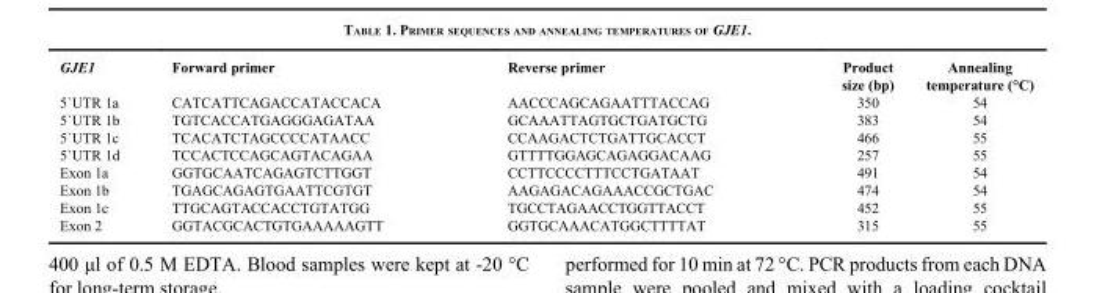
<table><thead><tr><td>GJE1</td><td>Forward primer</td><td>Reverse primer</td><td>Product size (bp)</td><td>Annealing temperature (°C)</td></tr></thead><tbody><tr><td>5`UTR 1a</td><td>CATCATTCAGACCATACCACA</td><td>AACCCAGCAGAATTTACCAG</td><td>350</td><td>54</td></tr><tr><td>5`UTR 1b</td><td>TGTCACCATGAGGGAGATAA</td><td>GCAAATTAGTGCTGATGCTG</td><td>383</td><td>54</td></tr><tr><td>5`UTR 1c</td><td>TCACATCTAGCCCCATAACC</td><td>CCAAGACTCTGATTGCACCT</td><td>466</td><td>55</td></tr><tr><td>5`UTR 1d</td><td>TCCACTCCAGCAGTACAGAA</td><td>GTTTTGGAGCAGAGGACAAG</td><td>257</td><td>55</td></tr><tr><td>Exon 1a</td><td>GGTGCAATCAGAGTCTTGGT</td><td>CCTTCCCCTTTCCTGATAAT</td><td>491</td><td>54</td></tr><tr><td>Exon 1b</td><td>TGAGCAGAGTGAATTCGTGT</td><td>AAGAGACAGAAACCGCTGAC</td><td>474</td><td>54</td></tr><tr><td>Exon 1c</td><td>TTGCAGTACCACCTGTATGG</td><td>TGCCTAGAACCTGGTTACCT</td><td>452</td><td>55</td></tr><tr><td>Exon 2</td><td>GGTACGCACTGTGAAAAAGTT</td><td>GGTGCAAACATGGCTTTTAT</td><td>315</td><td>55</td></tr></tbody></table>